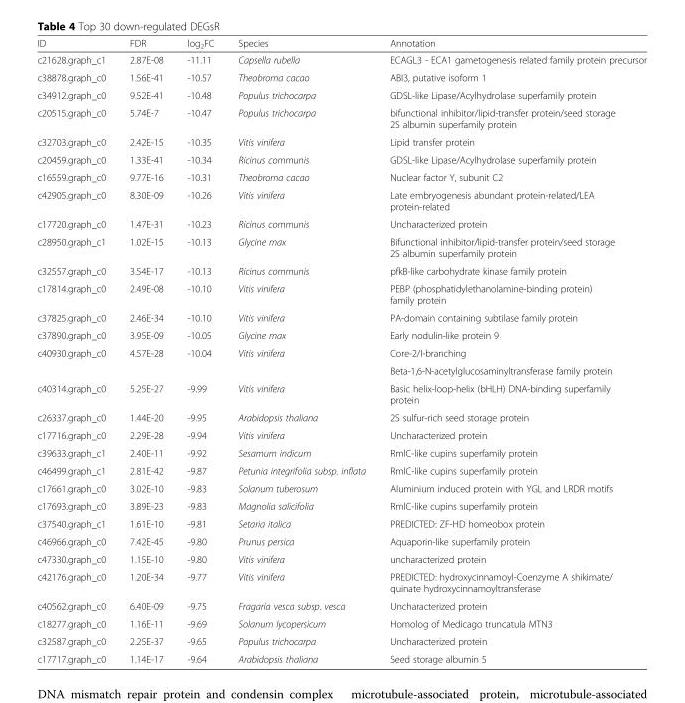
<table><thead><tr><td>ID</td><td>FDR</td><td>log<sub>2</sub>FC</td><td>Species</td><td>Annotation</td></tr></thead><tbody><tr><td>c21628.graph_c1</td><td>2.87E-08</td><td>-11.11</td><td>Capsella rubella</td><td>ECAGL3 - ECA1 gametogenesis related family protein precursor</td></tr><tr><td>c38878.graph_c0</td><td>1.56E-41</td><td>-10.57</td><td>Theobroma cacao</td><td>ABI3, putative isoform 1</td></tr><tr><td>c34912.graph_c0</td><td>9.52E-41</td><td>-10.48</td><td>Populus trichocarpa</td><td>GDSL-like Lipase/Acylhydrolase superfamily protein</td></tr><tr><td>c20515.graph_c0</td><td>5.74E-7</td><td>-10.47</td><td>Populus trichocarpa</td><td>bifunctional inhibitor/lipid-transfer protein/seed storage 2S albumin superfamily protein</td></tr><tr><td>c32703.graph_c0</td><td>2.42E-15</td><td>-10.35</td><td>Vitis vinifera</td><td>Lipid transfer protein</td></tr><tr><td>c20459.graph_c0</td><td>1.33E-41</td><td>-10.34</td><td>Ricinus communis</td><td>GDSL-like Lipase/Acylhydrolase superfamily protein</td></tr><tr><td>c16559.graph_c0</td><td>9.77E-16</td><td>-10.31</td><td>Theobroma cacao</td><td>Nuclear factor Y, subunit C2</td></tr><tr><td>c42905.graph_c0</td><td>8.30E-09</td><td>-10.26</td><td>Vitis vinifera</td><td>Late embryogenesis abundant protein-related/LEA protein-related</td></tr><tr><td>c17720.graph_c0</td><td>1.47E-31</td><td>-10.23</td><td>Ricinus communis</td><td>Uncharacterized protein</td></tr><tr><td>c28950.graph_c1</td><td>1.02E-15</td><td>-10.13</td><td>Glycine max</td><td>Bifunctional inhibitor/lipid-transfer protein/seed storage 2S albumin superfamily protein</td></tr><tr><td>c32557.graph_c0</td><td>3.54E-17</td><td>-10.13</td><td>Ricinus communis</td><td>pfkB-like carbohydrate kinase family protein</td></tr><tr><td>c17814.graph_c0</td><td>2.49E-08</td><td>-10.10</td><td>Vitis vinifera</td><td>PEBP (phosphatidylethanolamine-binding protein) family protein</td></tr><tr><td>c37825.graph_c0</td><td>2.46E-34</td><td>-10.10</td><td>Vitis vinifera</td><td>PA-domain containing subtilase family protein</td></tr><tr><td>c37890.graph_c0</td><td>3.95E-09</td><td>-10.05</td><td>Glycine max</td><td>Early nodulin-like protein 9</td></tr><tr><td rowspan="2">c40930.graph_c0</td><td rowspan="2">4.57E-28</td><td rowspan="2">-10.04</td><td rowspan="2">Vitis vinifera</td><td>Core-2/I-branching</td></tr><tr><td>Beta-1,6-N-acetylglucosaminyltransferase family protein</td></tr><tr><td>c40314.graph_c0</td><td>5.25E-27</td><td>-9.99</td><td>Vitis vinifera</td><td>Basic helix-loop-helix (bHLH) DNA-binding superfamily protein</td></tr><tr><td>c26337.graph_c0</td><td>1.44E-20</td><td>-9.95</td><td>Arabidopsis thaliana</td><td>2S sulfur-rich seed storage protein</td></tr><tr><td>c17716.graph_c0</td><td>2.29E-28</td><td>-9.94</td><td>Vitis vinifera</td><td>Uncharacterized protein</td></tr><tr><td>c39633.graph_c1</td><td>2.40E-11</td><td>-9.92</td><td>Sesamum indicum</td><td>RmlC-like cupins superfamily protein</td></tr><tr><td>c46499.graph_c1</td><td>2.81E-42</td><td>-9.87</td><td>Petunia integrifolia subsp. inflata</td><td>RmlC-like cupins superfamily protein</td></tr><tr><td>c17661.graph_c0</td><td>3.02E-10</td><td>-9.83</td><td>Solanum tuberosum</td><td>Aluminium induced protein with YGL and LRDR motifs</td></tr><tr><td>c17693.graph_c0</td><td>3.89E-23</td><td>-9.83</td><td>Magnolia salicifolia</td><td>RmlC-like cupins superfamily protein</td></tr><tr><td>c37540.graph_c1</td><td>1.61E-10</td><td>-9.81</td><td>Setaria italica</td><td>PREDICTED: ZF-HD homeobox protein</td></tr><tr><td>c46966.graph_c0</td><td>7.42E-45</td><td>-9.80</td><td>Prunus persica</td><td>Aquaporin-like superfamily protein</td></tr><tr><td>c47330.graph_c0</td><td>1.15E-10</td><td>-9.80</td><td>Vitis vinifera</td><td>uncharacterized protein</td></tr><tr><td>c42176.graph_c0</td><td>1.20E-34</td><td>-9.77</td><td>Vitis vinifera</td><td>PREDICTED: hydroxycinnamoyl-Coenzyme A shikimate/ quinate hydroxycinnamoyltransferase</td></tr><tr><td>c40562.graph_c0</td><td>6.40E-09</td><td>-9.75</td><td>Fragaria vesca subsp. vesca</td><td>Uncharacterized protein</td></tr><tr><td>c18277.graph_c0</td><td>1.16E-11</td><td>-9.69</td><td>Solanum lycopersicum</td><td>Homolog of Medicago truncatula MTN3</td></tr><tr><td>c32587.graph_c0</td><td>2.25E-37</td><td>-9.65</td><td>Populus trichocarpa</td><td>Uncharacterized protein</td></tr><tr><td>c17717.graph_c0</td><td>1.14E-17</td><td>-9.64</td><td>Arabidopsis thaliana</td><td>Seed storage albumin 5</td></tr></tbody></table>